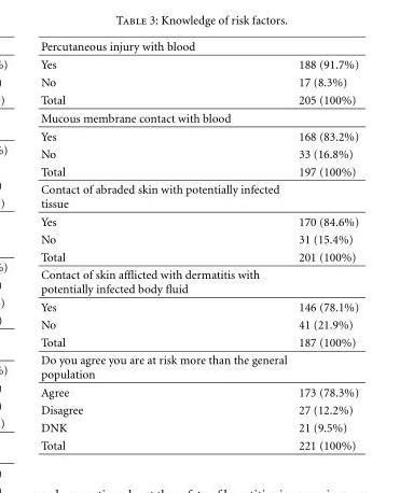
<table><thead><tr><td>Percutaneous injury with blood</td><td></td></tr></thead><tbody><tr><td>Yes</td><td>188 (91.7%)</td></tr><tr><td>No</td><td>17 (8.3%)</td></tr><tr><td>Total</td><td>205 (100%)</td></tr><tr><td colspan="2">Mucous membrane contact with blood</td></tr><tr><td>Yes</td><td>168 (83.2%)</td></tr><tr><td>No</td><td>33 (16.8%)</td></tr><tr><td>Total</td><td>197 (100%)</td></tr><tr><td colspan="2">Contact of abraded skin with potentially infected tissue</td></tr><tr><td>Yes</td><td>170 (84.6%)</td></tr><tr><td>No</td><td>31 (15.4%)</td></tr><tr><td>Total</td><td>201 (100%)</td></tr><tr><td colspan="2">Contact of skin afflicted with dermatitis with potentially infected body fluid</td></tr><tr><td>Yes</td><td>146 (78.1%)</td></tr><tr><td>No</td><td>41 (21.9%)</td></tr><tr><td>Total</td><td>187 (100%)</td></tr><tr><td colspan="2">Do you agree you are at risk more than the general population</td></tr><tr><td>Agree</td><td>173 (78.3%)</td></tr><tr><td>Disagree</td><td>27 (12.2%)</td></tr><tr><td>DNK</td><td>21 (9.5%)</td></tr><tr><td>Total</td><td>221 (100%)</td></tr></tbody></table>